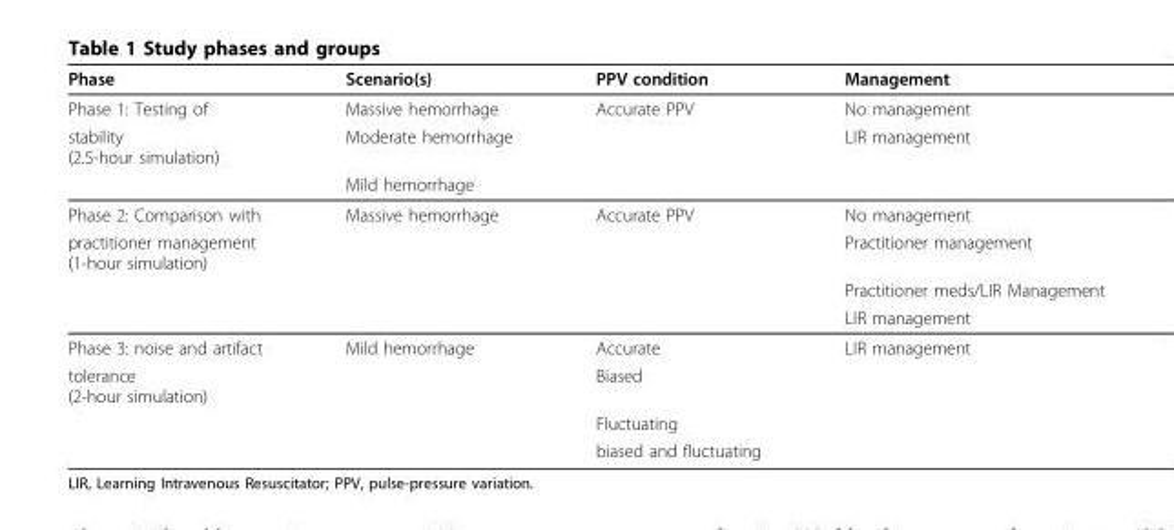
<table><thead><tr><td>Phase</td><td>Scenario(s)</td><td>PPV condition</td><td>Management</td></tr></thead><tbody><tr><td>Phase 1: Testing of</td><td>Massive hemorrhage</td><td>Accurate PPV</td><td>No management</td></tr><tr><td rowspan="2">stability (2.5-hour simulation)</td><td>Moderate hemorrhage</td><td></td><td>LIR management</td></tr><tr><td>Mild hemorrhage</td><td></td><td></td></tr><tr><td>Phase 2: Comparison with</td><td>Massive hemorrhage</td><td>Accurate PPV</td><td>No management</td></tr><tr><td rowspan="3">practitioner management (1-hour simulation)</td><td></td><td></td><td>Practitioner management</td></tr><tr><td></td><td></td><td>Practitioner meds/LIR Management</td></tr><tr><td></td><td></td><td>LIR management</td></tr><tr><td>Phase 3: noise and artifact</td><td>Mild hemorrhage</td><td>Accurate</td><td>LIR management</td></tr><tr><td rowspan="3">tolerance (2-hour simulation)</td><td></td><td>Biased</td><td></td></tr><tr><td></td><td>Fluctuating</td><td></td></tr><tr><td></td><td>biased and fluctuating</td><td></td></tr></tbody></table>